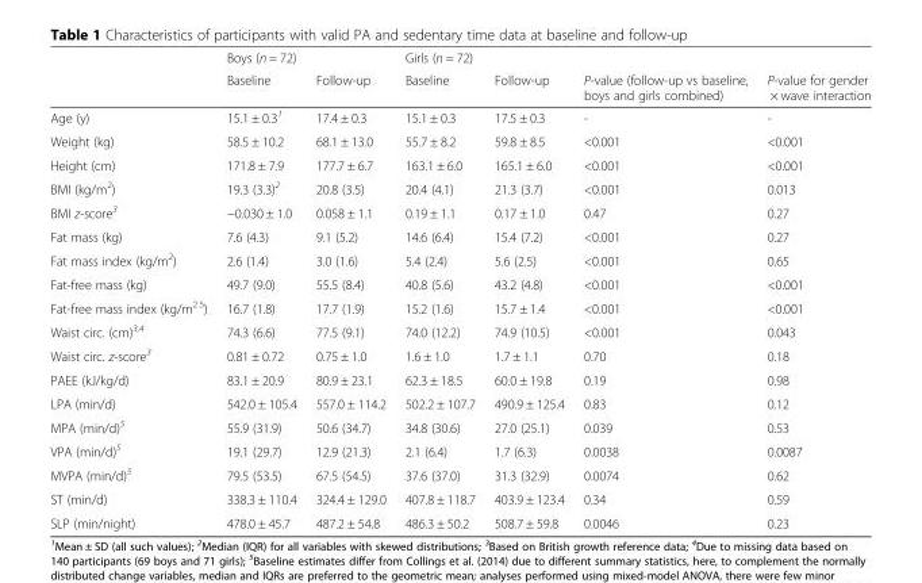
<table><thead><tr><td rowspan="2"></td><td colspan="2">Boys (n = 72)</td><td colspan="2">Girls (n = 72)</td><td rowspan="2">P-value (follow-up vs baseline, boys and girls combined)</td><td rowspan="2">P-value for gender × wave interaction</td></tr><tr><td>Baseline</td><td>Follow-up</td><td>Baseline</td><td>Follow-up</td></tr></thead><tbody><tr><td>Age (y)</td><td>15.1 ± 0.3<sup>1</sup></td><td>17.4 ± 0.3</td><td>15.1 ± 0.3</td><td>17.5 ± 0.3</td><td>-</td><td>-</td></tr><tr><td>Weight (kg)</td><td>58.5 ± 10.2</td><td>68.1 ± 13.0</td><td>55.7 ± 8.2</td><td>59.8 ± 8.5</td><td>&lt;0.001</td><td>&lt;0.001</td></tr><tr><td>Height (cm)</td><td>171.8 ± 7.9</td><td>177.7 ± 6.7</td><td>163.1 ± 6.0</td><td>165.1 ± 6.0</td><td>&lt;0.001</td><td>&lt;0.001</td></tr><tr><td>BMI (kg/m<sup>2</sup>)</td><td>19.3 (3.3)<sup>2</sup></td><td>20.8 (3.5)</td><td>20.4 (4.1)</td><td>21.3 (3.7)</td><td>&lt;0.001</td><td>0.013</td></tr><tr><td>BMI z-score<sup>3</sup></td><td>−0.030 ± 1.0</td><td>0.058 ± 1.1</td><td>0.19 ± 1.1</td><td>0.17 ± 1.0</td><td>0.47</td><td>0.27</td></tr><tr><td>Fat mass (kg)</td><td>7.6 (4.3)</td><td>9.1 (5.2)</td><td>14.6 (6.4)</td><td>15.4 (7.2)</td><td>&lt;0.001</td><td>0.27</td></tr><tr><td>Fat mass index (kg/m<sup>2</sup>)</td><td>2.6 (1.4)</td><td>3.0 (1.6)</td><td>5.4 (2.4)</td><td>5.6 (2.5)</td><td>&lt;0.001</td><td>0.65</td></tr><tr><td>Fat-free mass (kg)</td><td>49.7 (9.0)</td><td>55.5 (8.4)</td><td>40.8 (5.6)</td><td>43.2 (4.8)</td><td>&lt;0.001</td><td>&lt;0.001</td></tr><tr><td>Fat-free mass index (kg/m<sup>2.5</sup>)</td><td>16.7 (1.8)</td><td>17.7 (1.9)</td><td>15.2 (1.6)</td><td>15.7 ± 1.4</td><td>&lt;0.001</td><td>&lt;0.001</td></tr><tr><td>Waist circ. (cm)<sup>3,4</sup></td><td>74.3 (6.6)</td><td>77.5 (9.1)</td><td>74.0 (12.2)</td><td>74.9 (10.5)</td><td>&lt;0.001</td><td>0.043</td></tr><tr><td>Waist circ. z-score<sup>3</sup></td><td>0.81 ± 0.72</td><td>0.75 ± 1.0</td><td>1.6 ± 1.0</td><td>1.7 ± 1.1</td><td>0.70</td><td>0.18</td></tr><tr><td>PAEE (kJ/kg/d)</td><td>83.1 ± 20.9</td><td>80.9 ± 23.1</td><td>62.3 ± 18.5</td><td>60.0 ± 19.8</td><td>0.19</td><td>0.98</td></tr><tr><td>LPA (min/d)</td><td>542.0 ± 105.4</td><td>557.0 ± 114.2</td><td>502.2 ± 107.7</td><td>490.9 ± 125.4</td><td>0.83</td><td>0.12</td></tr><tr><td>MPA (min/d)<sup>5</sup></td><td>55.9 (31.9)</td><td>50.6 (34.7)</td><td>34.8 (30.6)</td><td>27.0 (25.1)</td><td>0.039</td><td>0.53</td></tr><tr><td>VPA (min/d)<sup>5</sup></td><td>19.1 (29.7)</td><td>12.9 (21.3)</td><td>2.1 (6.4)</td><td>1.7 (6.3)</td><td>0.0038</td><td>0.0087</td></tr><tr><td>MVPA (min/d)<sup>5</sup></td><td>79.5 (53.5)</td><td>67.5 (54.5)</td><td>37.6 (37.0)</td><td>31.3 (32.9)</td><td>0.0074</td><td>0.62</td></tr><tr><td>ST (min/d)</td><td>338.3 ± 110.4</td><td>324.4 ± 129.0</td><td>407.8 ± 118.7</td><td>403.9 ± 123.4</td><td>0.34</td><td>0.59</td></tr><tr><td>SLP (min/night)</td><td>478.0 ± 45.7</td><td>487.2 ± 54.8</td><td>486.3 ± 50.2</td><td>508.7 ± 59.8</td><td>0.0046</td><td>0.23</td></tr></tbody></table>